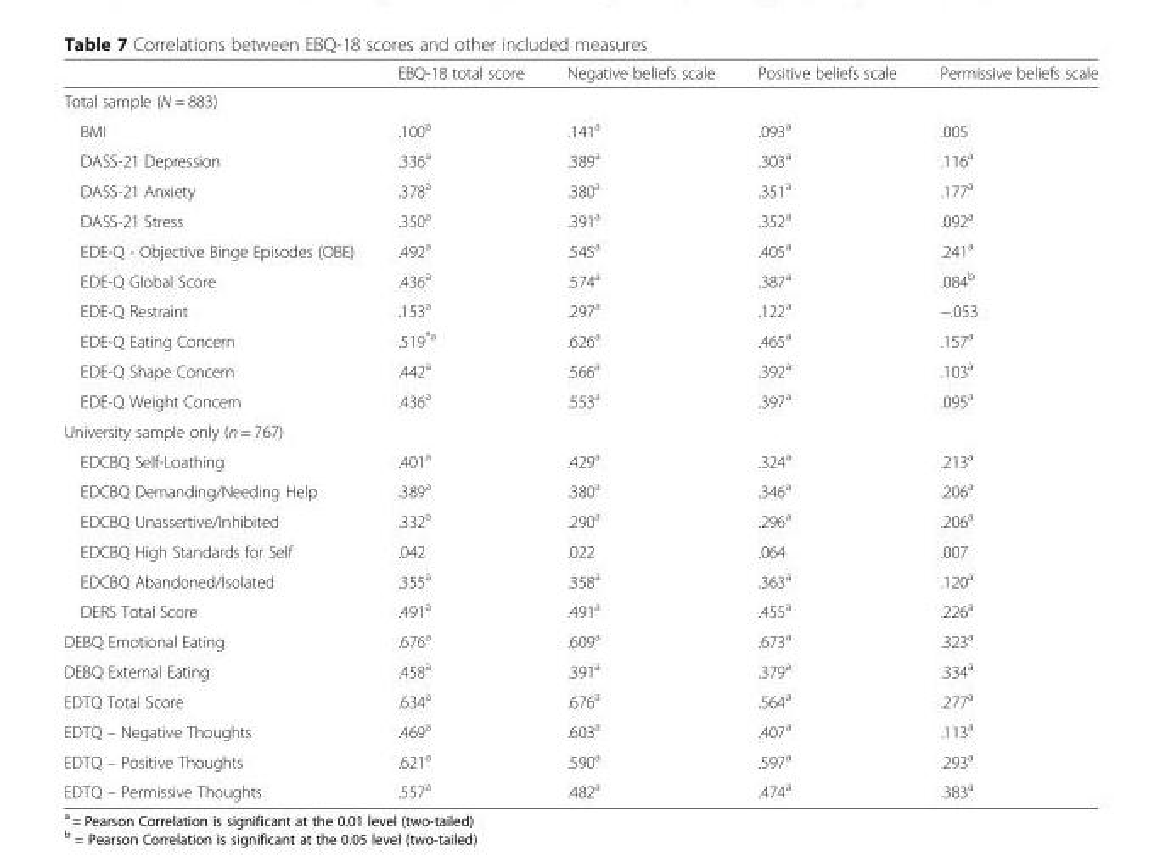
<table><thead><tr><td></td><td>EBQ-18 total score</td><td>Negative beliefs scale</td><td>Positive beliefs scale</td><td>Permissive beliefs scale</td></tr></thead><tbody><tr><td colspan="5">Total sample (N = 883)</td></tr><tr><td>BMI</td><td>.100<sup>a</sup></td><td>.141<sup>a</sup></td><td>.093<sup>a</sup></td><td>.005</td></tr><tr><td>DASS-21 Depression</td><td>.336<sup>a</sup></td><td>.389<sup>a</sup></td><td>.303<sup>a</sup></td><td>.116<sup>a</sup></td></tr><tr><td>DASS-21 Anxiety</td><td>.378<sup>a</sup></td><td>.380<sup>a</sup></td><td>.351<sup>a</sup></td><td>.177<sup>a</sup></td></tr><tr><td>DASS-21 Stress</td><td>.350<sup>a</sup></td><td>.391<sup>a</sup></td><td>.352<sup>a</sup></td><td>.092<sup>a</sup></td></tr><tr><td>EDE-Q - Objective Binge Episodes (OBE)</td><td>.492<sup>a</sup></td><td>.545<sup>a</sup></td><td>.405<sup>a</sup></td><td>.241<sup>a</sup></td></tr><tr><td>EDE-Q Global Score</td><td>.436<sup>a</sup></td><td>.574<sup>a</sup></td><td>.387<sup>a</sup></td><td>.084<sup>b</sup></td></tr><tr><td>EDE-Q Restraint</td><td>.153<sup>a</sup></td><td>.297<sup>a</sup></td><td>.122<sup>a</sup></td><td>−.053</td></tr><tr><td>EDE-Q Eating Concern</td><td>.519<sup>*a</sup></td><td>.626<sup>a</sup></td><td>.465<sup>a</sup></td><td>.157<sup>a</sup></td></tr><tr><td>EDE-Q Shape Concern</td><td>.442<sup>a</sup></td><td>.566<sup>a</sup></td><td>.392<sup>a</sup></td><td>.103<sup>a</sup></td></tr><tr><td>EDE-Q Weight Concern</td><td>.436<sup>a</sup></td><td>.553<sup>a</sup></td><td>.397<sup>a</sup></td><td>.095<sup>a</sup></td></tr><tr><td colspan="5">University sample only (n = 767)</td></tr><tr><td>EDCBQ Self-Loathing</td><td>.401<sup>a</sup></td><td>.429<sup>a</sup></td><td>.324<sup>a</sup></td><td>.213<sup>a</sup></td></tr><tr><td>EDCBQ Demanding/Needing Help</td><td>.389<sup>a</sup></td><td>.380<sup>a</sup></td><td>.346<sup>a</sup></td><td>.206<sup>a</sup></td></tr><tr><td>EDCBQ Unassertive/Inhibited</td><td>.332<sup>a</sup></td><td>.290<sup>a</sup></td><td>.296<sup>a</sup></td><td>.206<sup>a</sup></td></tr><tr><td>EDCBQ High Standards for Self</td><td>.042</td><td>.022</td><td>.064</td><td>.007</td></tr><tr><td>EDCBQ Abandoned/Isolated</td><td>.355<sup>a</sup></td><td>.358<sup>a</sup></td><td>.363<sup>a</sup></td><td>.120<sup>a</sup></td></tr><tr><td>DERS Total Score</td><td>.491<sup>a</sup></td><td>.491<sup>a</sup></td><td>.455<sup>a</sup></td><td>.226<sup>a</sup></td></tr><tr><td>DEBQ Emotional Eating</td><td>.676<sup>a</sup></td><td>.609<sup>a</sup></td><td>.673<sup>a</sup></td><td>.323<sup>a</sup></td></tr><tr><td>DEBQ External Eating</td><td>.458<sup>a</sup></td><td>.391<sup>a</sup></td><td>.379<sup>a</sup></td><td>.334<sup>a</sup></td></tr><tr><td>EDTQ Total Score</td><td>.634<sup>a</sup></td><td>.676<sup>a</sup></td><td>.564<sup>a</sup></td><td>.277<sup>a</sup></td></tr><tr><td>EDTQ – Negative Thoughts</td><td>.469<sup>a</sup></td><td>.603<sup>a</sup></td><td>.407<sup>a</sup></td><td>.113<sup>a</sup></td></tr><tr><td>EDTQ – Positive Thoughts</td><td>.621<sup>a</sup></td><td>.590<sup>a</sup></td><td>.597<sup>a</sup></td><td>.293<sup>a</sup></td></tr><tr><td>EDTQ – Permissive Thoughts</td><td>.557<sup>a</sup></td><td>.482<sup>a</sup></td><td>.474<sup>a</sup></td><td>.383<sup>a</sup></td></tr></tbody></table>